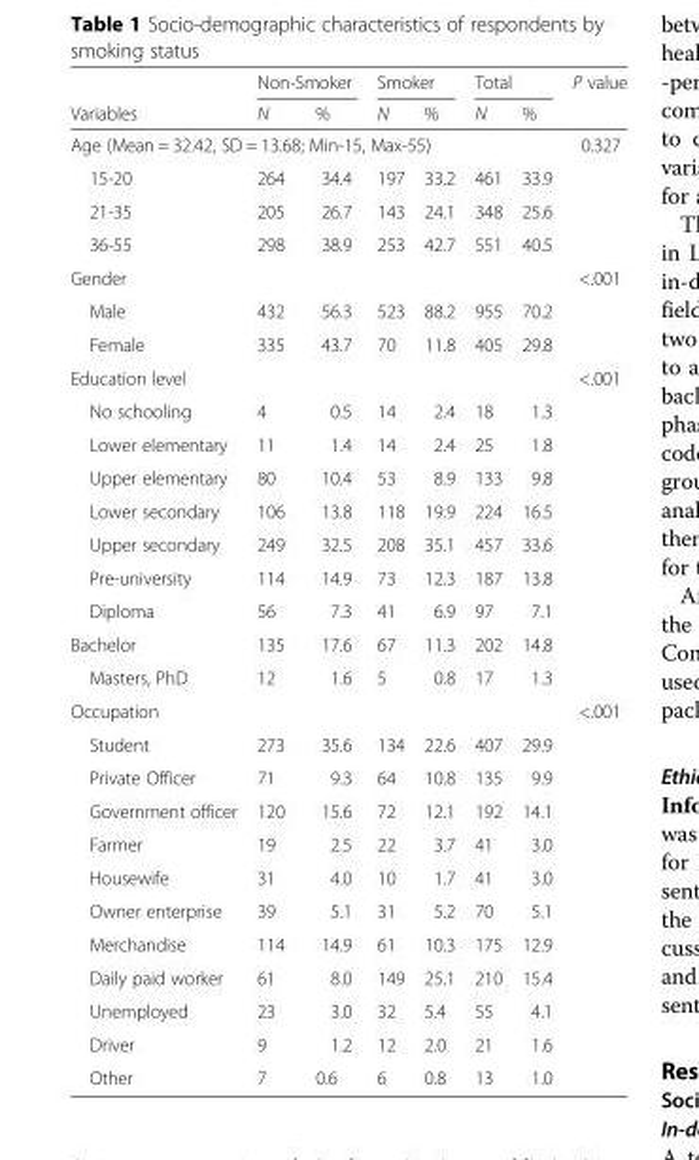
<table><thead><tr><td rowspan="2">Variables</td><td colspan="2">Non-Smoker</td><td colspan="2">Smoker</td><td colspan="2">Total</td><td rowspan="2">P value</td></tr><tr><td>N</td><td>%</td><td>N</td><td>%</td><td>N</td><td>%</td></tr></thead><tbody><tr><td colspan="7">Age (Mean = 32.42, SD = 13.68; Min-15, Max-55)</td><td>0.327</td></tr><tr><td>15-20</td><td>264</td><td>34.4</td><td>197</td><td>33.2</td><td>461</td><td>33.9</td><td></td></tr><tr><td>21-35</td><td>205</td><td>26.7</td><td>143</td><td>24.1</td><td>348</td><td>25.6</td><td></td></tr><tr><td>36-55</td><td>298</td><td>38.9</td><td>253</td><td>42.7</td><td>551</td><td>40.5</td><td></td></tr><tr><td colspan="7">Gender</td><td>&lt;.001</td></tr><tr><td>Male</td><td>432</td><td>56.3</td><td>523</td><td>88.2</td><td>955</td><td>70.2</td><td></td></tr><tr><td>Female</td><td>335</td><td>43.7</td><td>70</td><td>11.8</td><td>405</td><td>29.8</td><td></td></tr><tr><td colspan="7">Education level</td><td>&lt;.001</td></tr><tr><td>No schooling</td><td>4</td><td>0.5</td><td>14</td><td>2.4</td><td>18</td><td>1.3</td><td></td></tr><tr><td>Lower elementary</td><td>11</td><td>1.4</td><td>14</td><td>2.4</td><td>25</td><td>1.8</td><td></td></tr><tr><td>Upper elementary</td><td>80</td><td>10.4</td><td>53</td><td>8.9</td><td>133</td><td>9.8</td><td></td></tr><tr><td>Lower secondary</td><td>106</td><td>13.8</td><td>118</td><td>19.9</td><td>224</td><td>16.5</td><td></td></tr><tr><td>Upper secondary</td><td>249</td><td>32.5</td><td>208</td><td>35.1</td><td>457</td><td>33.6</td><td></td></tr><tr><td>Pre-university</td><td>114</td><td>14.9</td><td>73</td><td>12.3</td><td>187</td><td>13.8</td><td></td></tr><tr><td>Diploma</td><td>56</td><td>7.3</td><td>41</td><td>6.9</td><td>97</td><td>7.1</td><td></td></tr><tr><td>Bachelor</td><td>135</td><td>17.6</td><td>67</td><td>11.3</td><td>202</td><td>14.8</td><td></td></tr><tr><td>Masters, PhD</td><td>12</td><td>1.6</td><td>5</td><td>0.8</td><td>17</td><td>1.3</td><td></td></tr><tr><td colspan="7">Occupation</td><td>&lt;.001</td></tr><tr><td>Student</td><td>273</td><td>35.6</td><td>134</td><td>22.6</td><td>407</td><td>29.9</td><td></td></tr><tr><td>Private Officer</td><td>71</td><td>9.3</td><td>64</td><td>10.8</td><td>135</td><td>9.9</td><td></td></tr><tr><td>Government officer</td><td>120</td><td>15.6</td><td>72</td><td>12.1</td><td>192</td><td>14.1</td><td></td></tr><tr><td>Farmer</td><td>19</td><td>2.5</td><td>22</td><td>3.7</td><td>41</td><td>3.0</td><td></td></tr><tr><td>Housewife</td><td>31</td><td>4.0</td><td>10</td><td>1.7</td><td>41</td><td>3.0</td><td></td></tr><tr><td>Owner enterprise</td><td>39</td><td>5.1</td><td>31</td><td>5.2</td><td>70</td><td>5.1</td><td></td></tr><tr><td>Merchandise</td><td>114</td><td>14.9</td><td>61</td><td>10.3</td><td>175</td><td>12.9</td><td></td></tr><tr><td>Daily paid worker</td><td>61</td><td>8.0</td><td>149</td><td>25.1</td><td>210</td><td>15.4</td><td></td></tr><tr><td>Unemployed</td><td>23</td><td>3.0</td><td>32</td><td>5.4</td><td>55</td><td>4.1</td><td></td></tr><tr><td>Driver</td><td>9</td><td>1.2</td><td>12</td><td>2.0</td><td>21</td><td>1.6</td><td></td></tr><tr><td>Other</td><td>7</td><td>0.6</td><td>6</td><td>0.8</td><td>13</td><td>1.0</td><td></td></tr></tbody></table>